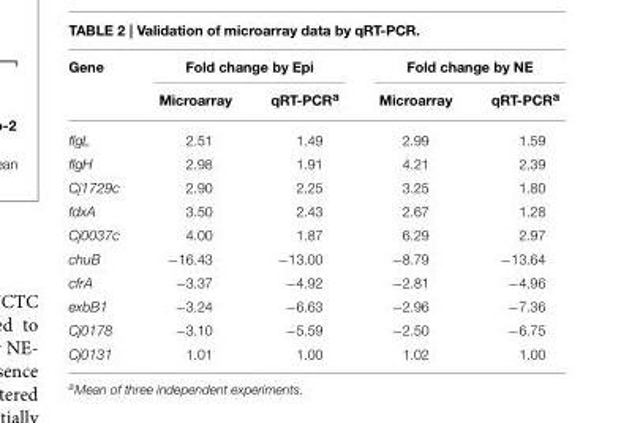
<table><thead><tr><td rowspan="2">Gene</td><td colspan="2">Fold change by Epi</td><td colspan="2">Fold change by NE</td></tr><tr><td>Microarray</td><td>qRT-PCR<sup>a</sup></td><td>Microarray</td><td>qRT-PCR<sup>a</sup></td></tr></thead><tbody><tr><td>flgL</td><td>2.51</td><td>1.49</td><td>2.99</td><td>1.59</td></tr><tr><td>flgH</td><td>2.98</td><td>1.91</td><td>4.21</td><td>2.39</td></tr><tr><td>Cj1729c</td><td>2.90</td><td>2.25</td><td>3.25</td><td>1.80</td></tr><tr><td>fdxA</td><td>3.50</td><td>2.43</td><td>2.67</td><td>1.28</td></tr><tr><td>Cj0037c</td><td>4.00</td><td>1.87</td><td>6.29</td><td>2.97</td></tr><tr><td>chuB</td><td>−16.43</td><td>−13.00</td><td>−8.79</td><td>−13.64</td></tr><tr><td>cfrA</td><td>−3.37</td><td>−4.92</td><td>−2.81</td><td>−4.96</td></tr><tr><td>exbB1</td><td>−3.24</td><td>−6.63</td><td>−2.96</td><td>−7.36</td></tr><tr><td>Cj0178</td><td>−3.10</td><td>−5.59</td><td>−2.50</td><td>−6.75</td></tr><tr><td>Cj0131</td><td>1.01</td><td>1.00</td><td>1.02</td><td>1.00</td></tr></tbody></table>